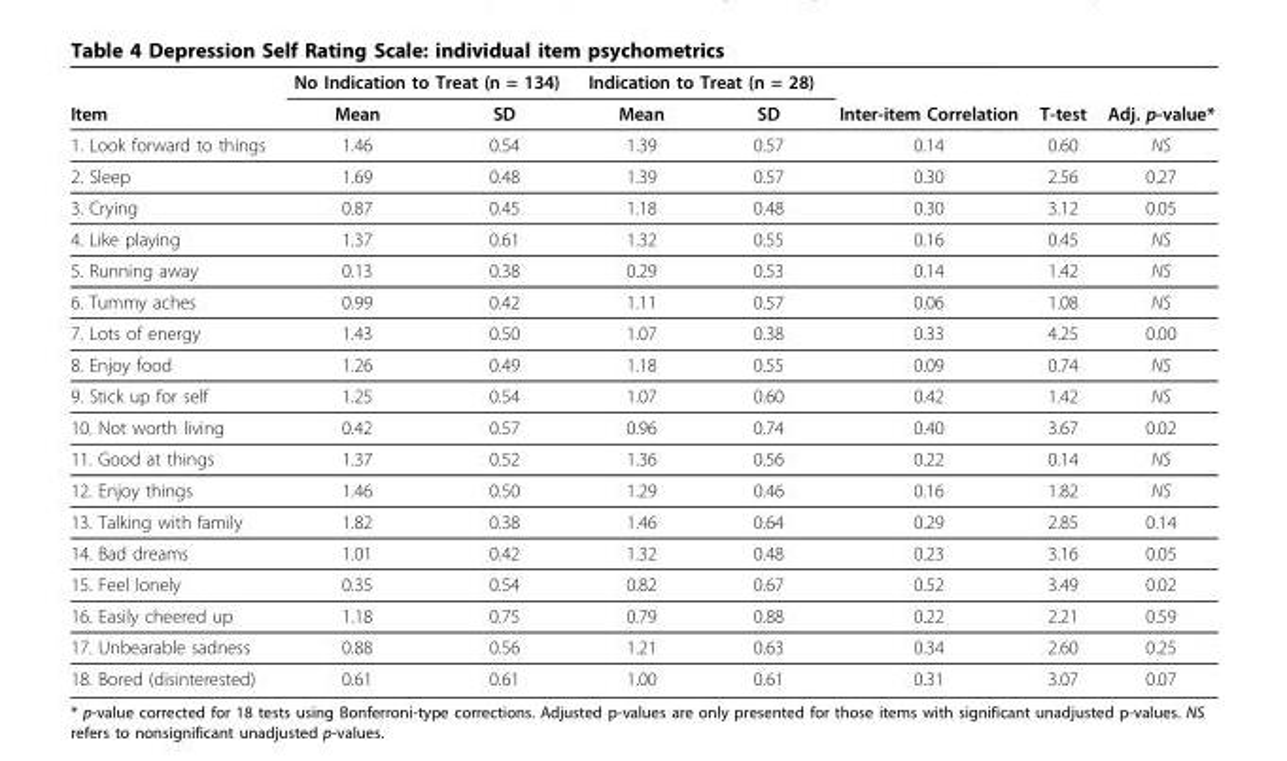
<table><thead><tr><td rowspan="2">Item</td><td colspan="2">No Indication to Treat (n = 134)</td><td colspan="2">Indication to Treat (n = 28)</td><td rowspan="2">Inter-item Correlation</td><td rowspan="2">T-test</td><td rowspan="2">Adj. p-value*</td></tr><tr><td>Mean</td><td>SD</td><td>Mean</td><td>SD</td></tr></thead><tbody><tr><td>1. Look forward to things</td><td>1.46</td><td>0.54</td><td>1.39</td><td>0.57</td><td>0.14</td><td>0.60</td><td>NS</td></tr><tr><td>2. Sleep</td><td>1.69</td><td>0.48</td><td>1.39</td><td>0.57</td><td>0.30</td><td>2.56</td><td>0.27</td></tr><tr><td>3. Crying</td><td>0.87</td><td>0.45</td><td>1.18</td><td>0.48</td><td>0.30</td><td>3.12</td><td>0.05</td></tr><tr><td>4. Like playing</td><td>1.37</td><td>0.61</td><td>1.32</td><td>0.55</td><td>0.16</td><td>0.45</td><td>NS</td></tr><tr><td>5. Running away</td><td>0.13</td><td>0.38</td><td>0.29</td><td>0.53</td><td>0.14</td><td>1.42</td><td>NS</td></tr><tr><td>6. Tummy aches</td><td>0.99</td><td>0.42</td><td>1.11</td><td>0.57</td><td>0.06</td><td>1.08</td><td>NS</td></tr><tr><td>7. Lots of energy</td><td>1.43</td><td>0.50</td><td>1.07</td><td>0.38</td><td>0.33</td><td>4.25</td><td>0.00</td></tr><tr><td>8. Enjoy food</td><td>1.26</td><td>0.49</td><td>1.18</td><td>0.55</td><td>0.09</td><td>0.74</td><td>NS</td></tr><tr><td>9. Stick up for self</td><td>1.25</td><td>0.54</td><td>1.07</td><td>0.60</td><td>0.42</td><td>1.42</td><td>NS</td></tr><tr><td>10. Not worth living</td><td>0.42</td><td>0.57</td><td>0.96</td><td>0.74</td><td>0.40</td><td>3.67</td><td>0.02</td></tr><tr><td>11. Good at things</td><td>1.37</td><td>0.52</td><td>1.36</td><td>0.56</td><td>0.22</td><td>0.14</td><td>NS</td></tr><tr><td>12. Enjoy things</td><td>1.46</td><td>0.50</td><td>1.29</td><td>0.46</td><td>0.16</td><td>1.82</td><td>NS</td></tr><tr><td>13. Talking with family</td><td>1.82</td><td>0.38</td><td>1.46</td><td>0.64</td><td>0.29</td><td>2.85</td><td>0.14</td></tr><tr><td>14. Bad dreams</td><td>1.01</td><td>0.42</td><td>1.32</td><td>0.48</td><td>0.23</td><td>3.16</td><td>0.05</td></tr><tr><td>15. Feel lonely</td><td>0.35</td><td>0.54</td><td>0.82</td><td>0.67</td><td>0.52</td><td>3.49</td><td>0.02</td></tr><tr><td>16. Easily cheered up</td><td>1.18</td><td>0.75</td><td>0.79</td><td>0.88</td><td>0.22</td><td>2.21</td><td>0.59</td></tr><tr><td>17. Unbearable sadness</td><td>0.88</td><td>0.56</td><td>1.21</td><td>0.63</td><td>0.34</td><td>2.60</td><td>0.25</td></tr><tr><td>18. Bored (disinterested)</td><td>0.61</td><td>0.61</td><td>1.00</td><td>0.61</td><td>0.31</td><td>3.07</td><td>0.07</td></tr></tbody></table>